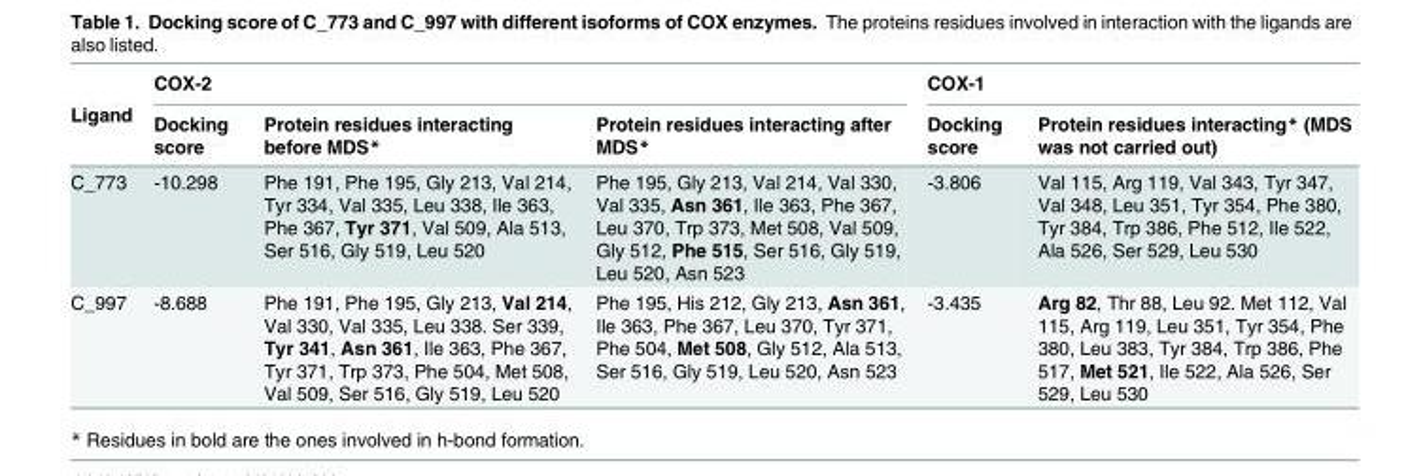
<table><thead><tr><td rowspan="2">Ligand</td><td colspan="3">COX-2</td><td colspan="2">COX-1</td></tr><tr><td>Docking score</td><td>Protein residues interacting before MDS*</td><td>Protein residues interacting after MDS*</td><td>Docking score</td><td>Protein residues interacting* (MDS was not carried out)</td></tr></thead><tbody><tr><td>C_773</td><td>-10.298</td><td>Phe 191, Phe 195, Gly 213, Val 214, Tyr 334, Val 335, Leu 338, Ile 363, Phe 367, Tyr 371, Val 509, Ala 513, Ser 516, Gly 519, Leu 520</td><td>Phe 195, Gly 213, Val 214, Val 330, Val 335, Asn 361, Ile 363, Phe 367, Leu 370, Trp 373, Met 508, Val 509, Gly 512, Phe 515, Ser 516, Gly 519, Leu 520, Asn 523</td><td>-3.806</td><td>Val 115, Arg 119, Val 343, Tyr 347, Val 348, Leu 351, Tyr 354, Phe 380, Tyr 384, Trp 386, Phe 512, Ile 522, Ala 526, Ser 529, Leu 530</td></tr><tr><td>C_997</td><td>-8.688</td><td>Phe 191, Phe 195, Gly 213, Val 214, Val 330, Val 335, Leu 338. Ser 339, Tyr 341, Asn 361, Ile 363, Phe 367, Tyr 371, Trp 373, Phe 504, Met 508, Val 509, Ser 516, Gly 519, Leu 520</td><td>Phe 195, His 212, Gly 213, Asn 361, Ile 363, Phe 367, Leu 370, Tyr 371, Phe 504, Met 508, Gly 512, Ala 513, Ser 516, Gly 519, Leu 520, Asn 523</td><td>-3.435</td><td>Arg 82, Thr 88, Leu 92. Met 112, Val 115, Arg 119, Leu 351, Tyr 354, Phe 380, Leu 383, Tyr 384, Trp 386, Phe 517, Met 521, Ile 522, Ala 526, Ser 529, Leu 530</td></tr></tbody></table>